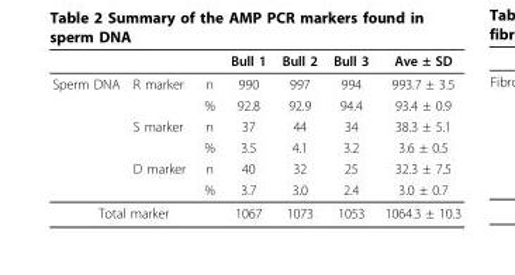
<table><thead><tr><td></td><td></td><td></td><td>Bull 1</td><td>Bull 2</td><td>Bull 3</td><td>Ave ± SD</td></tr></thead><tbody><tr><td rowspan="6">Sperm DNA</td><td>R marker</td><td>n</td><td>990</td><td>997</td><td>994</td><td>993.7 ± 3.5</td></tr><tr><td></td><td>%</td><td>92.8</td><td>92.9</td><td>94.4</td><td>93.4 ± 0.9</td></tr><tr><td>S marker</td><td>n</td><td>37</td><td>44</td><td>34</td><td>38.3 ± 5.1</td></tr><tr><td></td><td>%</td><td>3.5</td><td>4.1</td><td>3.2</td><td>3.6 ± 0.5</td></tr><tr><td>D marker</td><td>n</td><td>40</td><td>32</td><td>25</td><td>32.3 ± 7.5</td></tr><tr><td></td><td>%</td><td>3.7</td><td>3.0</td><td>2.4</td><td>3.0 ± 0.7</td></tr><tr><td colspan="3">Total marker</td><td>1067</td><td>1073</td><td>1053</td><td>1064.3 ± 10.3</td></tr></tbody></table>